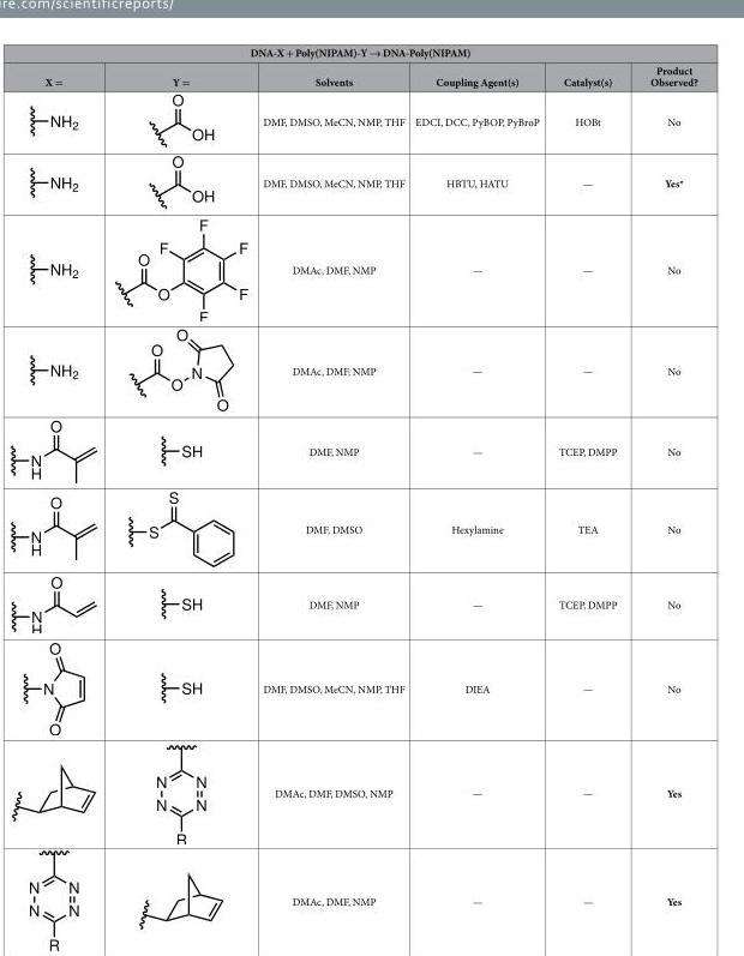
<table><thead><tr><td colspan="6">DNA-X + Poly(NIPAM)-Y → DNA-Poly(NIPAM)</td></tr><tr><td>X =</td><td>Y =</td><td>Solvents</td><td>Coupling Agent(s)</td><td>Catalyst(s)</td><td>Product Observed?</td></tr></thead><tbody><tr><td></td><td></td><td>DMF, DMSO, MeCN, NMP, THF</td><td>EDCI, DCC, PyBOP, PyBroP</td><td>HOBt</td><td>No</td></tr><tr><td></td><td></td><td>DMF, DMSO, MeCN, NMP, THF</td><td>HBTU, HATU</td><td>—</td><td>Yes*</td></tr><tr><td></td><td></td><td>DMAc, DMF, NMP</td><td>—</td><td>—</td><td>No</td></tr><tr><td></td><td></td><td>DMAc, DMF, NMP</td><td>—</td><td>—</td><td>No</td></tr><tr><td></td><td></td><td>DMF, NMP</td><td>—</td><td>TCEP, DMPP</td><td>No</td></tr><tr><td></td><td></td><td>DMF, DMSO</td><td>Hexylamine</td><td>TEA</td><td>No</td></tr><tr><td></td><td></td><td>DMF, NMP</td><td>—</td><td>TCEP, DMPP</td><td>No</td></tr><tr><td></td><td></td><td>DMF, DMSO, MeCN, NMP, THF</td><td>DIEA</td><td>—</td><td>No</td></tr><tr><td></td><td></td><td>DMAc, DMF, DMSO, NMP</td><td>—</td><td>—</td><td>Yes</td></tr><tr><td></td><td></td><td>DMAc, DMF, NMP</td><td>—</td><td>—</td><td>Yes</td></tr></tbody></table>